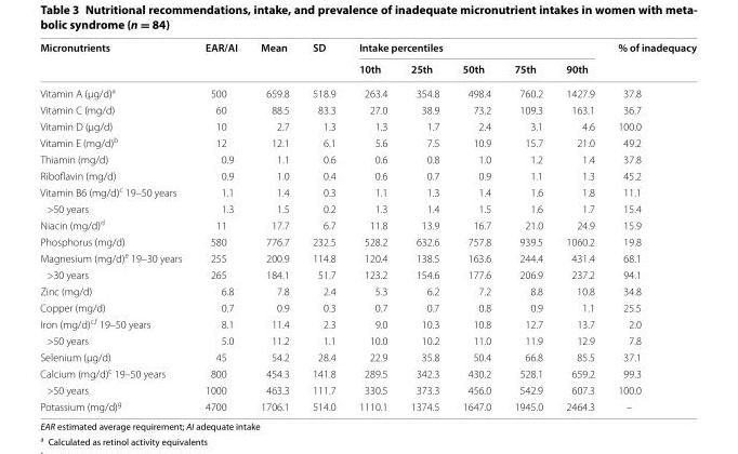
<table><thead><tr><td rowspan="2">Micronutrients</td><td rowspan="2">EAR/AI</td><td rowspan="2">Mean</td><td rowspan="2">SD</td><td colspan="5">Intake percentiles</td><td rowspan="2">% of inadequacy</td></tr><tr><td>10th</td><td>25th</td><td>50th</td><td>75th</td><td>90th</td></tr></thead><tbody><tr><td>Vitamin A (μg/d)<sup>a</sup></td><td>500</td><td>659.8</td><td>518.9</td><td>263.4</td><td>354.8</td><td>498.4</td><td>760.2</td><td>1427.9</td><td>37.8</td></tr><tr><td>Vitamin C (mg/d)</td><td>60</td><td>88.5</td><td>83.3</td><td>27.0</td><td>38.9</td><td>73.2</td><td>109.3</td><td>163.1</td><td>36.7</td></tr><tr><td>Vitamin D (μg/d)</td><td>10</td><td>2.7</td><td>1.3</td><td>1.3</td><td>1.7</td><td>2.4</td><td>3.1</td><td>4.6</td><td>100.0</td></tr><tr><td>Vitamin E (mg/d)<sup>b</sup></td><td>12</td><td>12.1</td><td>6.1</td><td>5.6</td><td>7.5</td><td>10.9</td><td>15.7</td><td>21.0</td><td>49.2</td></tr><tr><td>Thiamin (mg/d)</td><td>0.9</td><td>1.1</td><td>0.6</td><td>0.6</td><td>0.8</td><td>1.0</td><td>1.2</td><td>1.4</td><td>37.8</td></tr><tr><td>Riboflavin (mg/d)</td><td>0.9</td><td>1.0</td><td>0.4</td><td>0.6</td><td>0.7</td><td>0.9</td><td>1.1</td><td>1.3</td><td>45.2</td></tr><tr><td>Vitamin B6 (mg/d)<sup>c</sup> 19–50 years</td><td>1.1</td><td>1.4</td><td>0.3</td><td>1.1</td><td>1.3</td><td>1.4</td><td>1.6</td><td>1.8</td><td>11.1</td></tr><tr><td>&gt;50 years</td><td>1.3</td><td>1.5</td><td>0.2</td><td>1.3</td><td>1.4</td><td>1.5</td><td>1.6</td><td>1.7</td><td>15.4</td></tr><tr><td>Niacin (mg/d)<sup>d</sup></td><td>11</td><td>17.7</td><td>6.7</td><td>11.8</td><td>13.9</td><td>16.7</td><td>21.0</td><td>24.9</td><td>15.9</td></tr><tr><td>Phosphorus (mg/d)</td><td>580</td><td>776.7</td><td>232.5</td><td>528.2</td><td>632.6</td><td>757.8</td><td>939.5</td><td>1060.2</td><td>19.8</td></tr><tr><td>Magnesium (mg/d)<sup>e</sup> 19–30 years</td><td>255</td><td>200.9</td><td>114.8</td><td>120.4</td><td>138.5</td><td>163.6</td><td>244.4</td><td>431.4</td><td>68.1</td></tr><tr><td>&gt;30 years</td><td>265</td><td>184.1</td><td>51.7</td><td>123.2</td><td>154.6</td><td>177.6</td><td>206.9</td><td>237.2</td><td>94.1</td></tr><tr><td>Zinc (mg/d)</td><td>6.8</td><td>7.8</td><td>2.4</td><td>5.3</td><td>6.2</td><td>7.2</td><td>8.8</td><td>10.8</td><td>34.8</td></tr><tr><td>Copper (mg/d)</td><td>0.7</td><td>0.9</td><td>0.3</td><td>0.7</td><td>0.7</td><td>0.8</td><td>0.9</td><td>1.1</td><td>25.5</td></tr><tr><td>Iron (mg/d)<sup>c,f</sup> 19–50 years</td><td>8.1</td><td>11.4</td><td>2.3</td><td>9.0</td><td>10.3</td><td>10.8</td><td>12.7</td><td>13.7</td><td>2.0</td></tr><tr><td>&gt;50 years</td><td>5.0</td><td>11.2</td><td>1.1</td><td>10.0</td><td>10.2</td><td>11.0</td><td>11.9</td><td>12.9</td><td>7.8</td></tr><tr><td>Selenium (μg/d)</td><td>45</td><td>54.2</td><td>28.4</td><td>22.9</td><td>35.8</td><td>50.4</td><td>66.8</td><td>85.5</td><td>37.1</td></tr><tr><td>Calcium (mg/d)<sup>c</sup> 19–50 years</td><td>800</td><td>454.3</td><td>141.8</td><td>289.5</td><td>342.3</td><td>430.2</td><td>528.1</td><td>659.2</td><td>99.3</td></tr><tr><td>&gt;50 years</td><td>1000</td><td>463.3</td><td>111.7</td><td>330.5</td><td>373.3</td><td>456.0</td><td>542.9</td><td>607.3</td><td>100.0</td></tr><tr><td>Potassium (mg/d)<sup>g</sup></td><td>4700</td><td>1706.1</td><td>514.0</td><td>1110.1</td><td>1374.5</td><td>1647.0</td><td>1945.0</td><td>2464.3</td><td>–</td></tr></tbody></table>